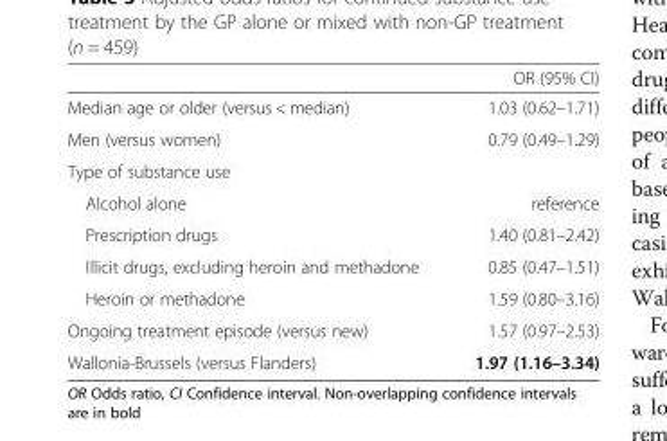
<table><thead><tr><td></td><td>OR (95% CI)</td></tr></thead><tbody><tr><td>Median age or older (versus &lt; median)</td><td>1.03 (0.62–1.71)</td></tr><tr><td>Men (versus women)</td><td>0.79 (0.49–1.29)</td></tr><tr><td colspan="2">Type of substance use</td></tr><tr><td>Alcohol alone</td><td>reference</td></tr><tr><td>Prescription drugs</td><td>1.40 (0.81–2.42)</td></tr><tr><td>Illicit drugs, excluding heroin and methadone</td><td>0.85 (0.47–1.51)</td></tr><tr><td>Heroin or methadone</td><td>1.59 (0.80–3.16)</td></tr><tr><td>Ongoing treatment episode (versus new)</td><td>1.57 (0.97–2.53)</td></tr><tr><td>Wallonia-Brussels (versus Flanders)</td><td>1.97 (1.16–3.34)</td></tr></tbody></table>